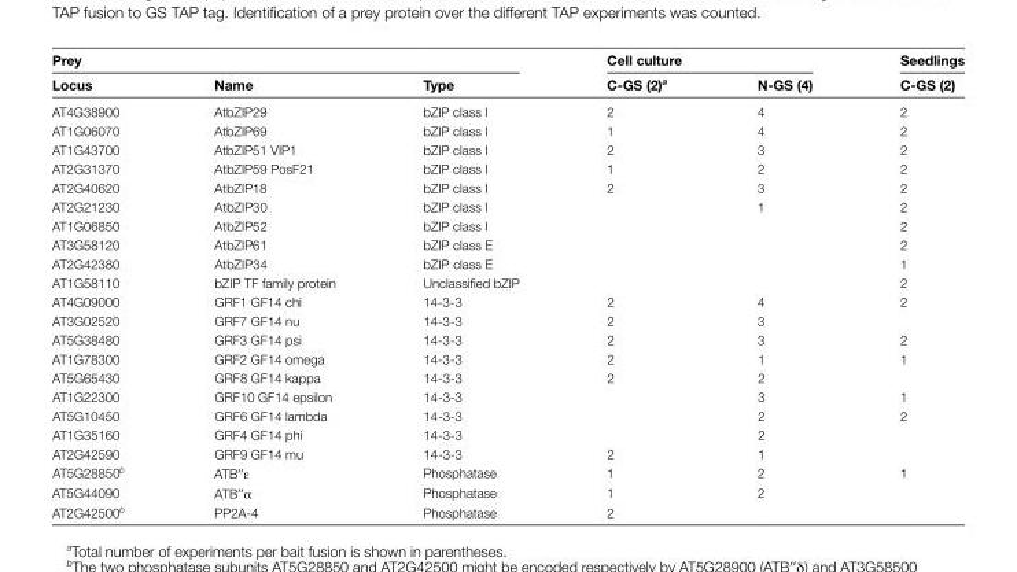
<table><thead><tr><td colspan="3">Prey</td><td colspan="2">Cell culture</td><td rowspan="2">Seedlings C-GS (2)</td></tr><tr><td>Locus</td><td>Name</td><td>Type</td><td>C-GS (2)<sup>a</sup></td><td>N-GS (4)</td></tr></thead><tbody><tr><td>AT4G38900</td><td>AtbZIP29</td><td>bZIP class I</td><td>2</td><td>4</td><td>2</td></tr><tr><td>AT1G06070</td><td>AtbZIP69</td><td>bZIP class I</td><td>1</td><td>4</td><td>2</td></tr><tr><td>AT1G43700</td><td>AtbZIP51 VIP1</td><td>bZIP class I</td><td>2</td><td>3</td><td>2</td></tr><tr><td>AT2G31370</td><td>AtbZIP59 PosF21</td><td>bZIP class I</td><td>1</td><td>2</td><td>2</td></tr><tr><td>AT2G40620</td><td>AtbZIP18</td><td>bZIP class I</td><td>2</td><td>3</td><td>2</td></tr><tr><td>AT2G21230</td><td>AtbZIP30</td><td>bZIP class I</td><td></td><td>1</td><td>2</td></tr><tr><td>AT1G06850</td><td>AtbZIP52</td><td>bZIP class I</td><td></td><td></td><td>2</td></tr><tr><td>AT3G58120</td><td>AtbZIP61</td><td>bZIP class E</td><td></td><td></td><td>2</td></tr><tr><td>AT2G42380</td><td>AtbZIP34</td><td>bZIP class E</td><td></td><td></td><td>1</td></tr><tr><td>AT1G58110</td><td>bZIP TF family protein</td><td>Unclassified bZIP</td><td></td><td></td><td>2</td></tr><tr><td>AT4G09000</td><td>GRF1 GF14 chi</td><td>14-3-3</td><td>2</td><td>4</td><td>2</td></tr><tr><td>AT3G02520</td><td>GRF7 GF14 nu</td><td>14-3-3</td><td>2</td><td>3</td><td></td></tr><tr><td>AT5G38480</td><td>GRF3 GF14 psi</td><td>14-3-3</td><td>2</td><td>3</td><td>2</td></tr><tr><td>AT1G78300</td><td>GRF2 GF14 omega</td><td>14-3-3</td><td>2</td><td>1</td><td>1</td></tr><tr><td>AT5G65430</td><td>GRF8 GF14 kappa</td><td>14-3-3</td><td>2</td><td>2</td><td></td></tr><tr><td>AT1G22300</td><td>GRF10 GF14 epsilon</td><td>14-3-3</td><td></td><td>3</td><td>1</td></tr><tr><td>AT5G10450</td><td>GRF6 GF14 lambda</td><td>14-3-3</td><td></td><td>2</td><td>2</td></tr><tr><td>AT1G35160</td><td>GRF4 GF14 phi</td><td>14-3-3</td><td></td><td>2</td><td></td></tr><tr><td>AT2G42590</td><td>GRF9 GF14 mu</td><td>14-3-3</td><td>2</td><td>1</td><td></td></tr><tr><td>AT5G28850<sup>b</sup></td><td>ATB′′ε</td><td>Phosphatase</td><td>1</td><td>2</td><td>1</td></tr><tr><td>AT5G44090</td><td>ATB′′α</td><td>Phosphatase</td><td>1</td><td>2</td><td></td></tr><tr><td>AT2G42500<sup>b</sup></td><td>PP2A-4</td><td>Phosphatase</td><td>2</td><td></td><td></td></tr></tbody></table>